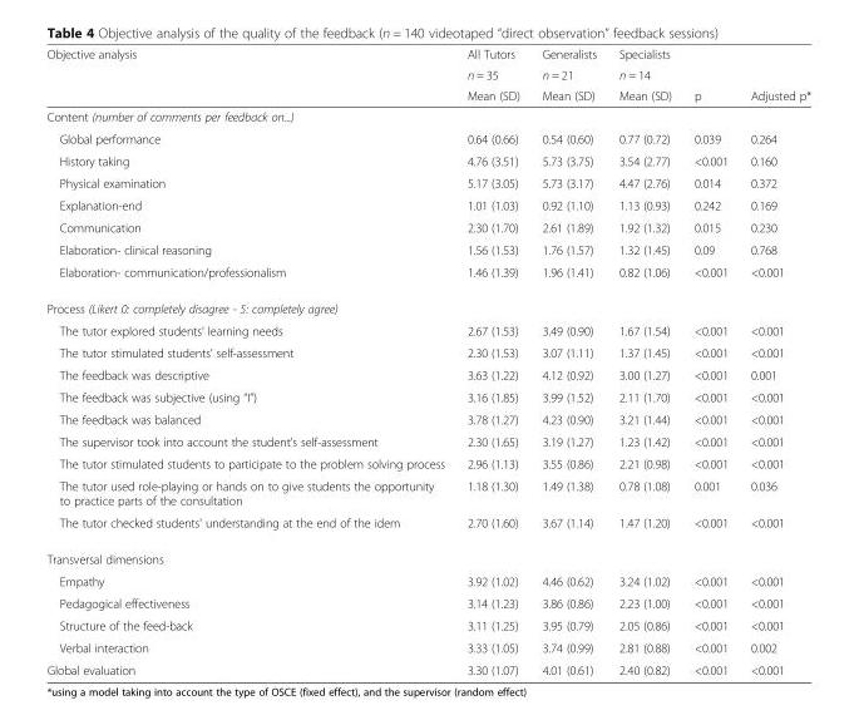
<table><thead><tr><td rowspan="3">Objective analysis</td><td rowspan="3">All Tutors n = 35 Mean (SD)</td><td rowspan="3">Generalists n = 21 Mean (SD)</td><td rowspan="3">Specialists n = 14 Mean (SD)</td><td rowspan="3">p</td><td rowspan="3">Adjusted p*</td></tr><tr></tr><tr></tr></thead><tbody><tr><td colspan="6">Content (number of comments per feedback on...)</td></tr><tr><td>Global performance</td><td>0.64 (0.66)</td><td>0.54 (0.60)</td><td>0.77 (0.72)</td><td>0.039</td><td>0.264</td></tr><tr><td>History taking</td><td>4.76 (3.51)</td><td>5.73 (3.75)</td><td>3.54 (2.77)</td><td>&lt;0.001</td><td>0.160</td></tr><tr><td>Physical examination</td><td>5.17 (3.05)</td><td>5.73 (3.17)</td><td>4.47 (2.76)</td><td>0.014</td><td>0.372</td></tr><tr><td>Explanation-end</td><td>1.01 (1.03)</td><td>0.92 (1.10)</td><td>1.13 (0.93)</td><td>0.242</td><td>0.169</td></tr><tr><td>Communication</td><td>2.30 (1.70)</td><td>2.61 (1.89)</td><td>1.92 (1.32)</td><td>0.015</td><td>0.230</td></tr><tr><td>Elaboration- clinical reasoning</td><td>1.56 (1.53)</td><td>1.76 (1.57)</td><td>1.32 (1.45)</td><td>0.09</td><td>0.768</td></tr><tr><td>Elaboration- communication/professionalism</td><td>1.46 (1.39)</td><td>1.96 (1.41)</td><td>0.82 (1.06)</td><td>&lt;0.001</td><td>&lt;0.001</td></tr><tr><td colspan="6">Process (Likert 0: completely disagree - 5: completely agree)</td></tr><tr><td>The tutor explored students’ learning needs</td><td>2.67 (1.53)</td><td>3.49 (0.90)</td><td>1.67 (1.54)</td><td>&lt;0.001</td><td>&lt;0.001</td></tr><tr><td>The tutor stimulated students’ self-assessment</td><td>2.30 (1.53)</td><td>3.07 (1.11)</td><td>1.37 (1.45)</td><td>&lt;0.001</td><td>&lt;0.001</td></tr><tr><td>The feedback was descriptive</td><td>3.63 (1.22)</td><td>4.12 (0.92)</td><td>3.00 (1.27)</td><td>&lt;0.001</td><td>0.001</td></tr><tr><td>The feedback was subjective (using “I”)</td><td>3.16 (1.85)</td><td>3.99 (1.52)</td><td>2.11 (1.70)</td><td>&lt;0.001</td><td>&lt;0.001</td></tr><tr><td>The feedback was balanced</td><td>3.78 (1.27)</td><td>4.23 (0.90)</td><td>3.21 (1.44)</td><td>&lt;0.001</td><td>&lt;0.001</td></tr><tr><td>The supervisor took into account the student’s self-assessment</td><td>2.30 (1.65)</td><td>3.19 (1.27)</td><td>1.23 (1.42)</td><td>&lt;0.001</td><td>&lt;0.001</td></tr><tr><td>The tutor stimulated students to participate to the problem solving process</td><td>2.96 (1.13)</td><td>3.55 (0.86)</td><td>2.21 (0.98)</td><td>&lt;0.001</td><td>&lt;0.001</td></tr><tr><td>The tutor used role-playing or hands on to give students the opportunity to practice parts of the consultation</td><td>1.18 (1.30)</td><td>1.49 (1.38)</td><td>0.78 (1.08)</td><td>0.001</td><td>0.036</td></tr><tr><td>The tutor checked students’ understanding at the end of the idem</td><td>2.70 (1.60)</td><td>3.67 (1.14)</td><td>1.47 (1.20)</td><td>&lt;0.001</td><td>&lt;0.001</td></tr><tr><td colspan="6">Transversal dimensions</td></tr><tr><td>Empathy</td><td>3.92 (1.02)</td><td>4.46 (0.62)</td><td>3.24 (1.02)</td><td>&lt;0.001</td><td>&lt;0.001</td></tr><tr><td>Pedagogical effectiveness</td><td>3.14 (1.23)</td><td>3.86 (0.86)</td><td>2.23 (1.00)</td><td>&lt;0.001</td><td>&lt;0.001</td></tr><tr><td>Structure of the feed-back</td><td>3.11 (1.25)</td><td>3.95 (0.79)</td><td>2.05 (0.86)</td><td>&lt;0.001</td><td>&lt;0.001</td></tr><tr><td>Verbal interaction</td><td>3.33 (1.05)</td><td>3.74 (0.99)</td><td>2.81 (0.88)</td><td>&lt;0.001</td><td>0.002</td></tr><tr><td>Global evaluation</td><td>3.30 (1.07)</td><td>4.01 (0.61)</td><td>2.40 (0.82)</td><td>&lt;0.001</td><td>&lt;0.001</td></tr></tbody></table>